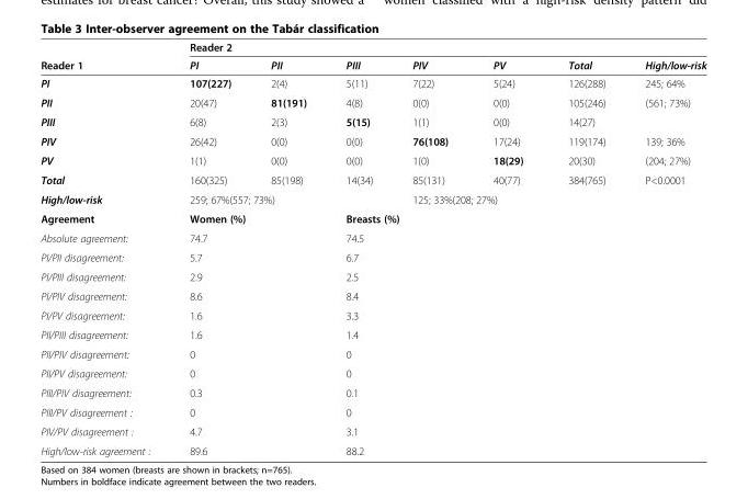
<table><thead><tr><td rowspan="2">Reader 1</td><td colspan="7">Reader 2</td></tr><tr><td>PI</td><td>PII</td><td>PIII</td><td>PIV</td><td>PV</td><td>Total</td><td>High/low-risk</td></tr></thead><tbody><tr><td>PI</td><td>107(227)</td><td>2(4)</td><td>5(11)</td><td>7(22)</td><td>5(24)</td><td>126(288)</td><td>245; 64%</td></tr><tr><td>PII</td><td>20(47)</td><td>81(191)</td><td>4(8)</td><td>0(0)</td><td>0(0)</td><td>105(246)</td><td>(561; 73%)</td></tr><tr><td>PIII</td><td>6(8)</td><td>2(3)</td><td>5(15)</td><td>1(1)</td><td>0(0)</td><td>14(27)</td><td></td></tr><tr><td>PIV</td><td>26(42)</td><td>0(0)</td><td>0(0)</td><td>76(108)</td><td>17(24)</td><td>119(174)</td><td>139; 36%</td></tr><tr><td>PV</td><td>1(1)</td><td>0(0)</td><td>0(0)</td><td>1(0)</td><td>18(29)</td><td>20(30)</td><td>(204; 27%)</td></tr><tr><td>Total</td><td>160(325)</td><td>85(198)</td><td>14(34)</td><td>85(131)</td><td>40(77)</td><td>384(765)</td><td>P&lt;0.0001</td></tr><tr><td>High/low-risk</td><td colspan="2">259; 67%(557; 73%)</td><td></td><td colspan="2">125; 33%(208; 27%)</td><td></td><td></td></tr><tr><td>Agreement</td><td colspan="2">Women (%)</td><td colspan="3">Breasts (%)</td><td></td><td></td></tr><tr><td>Absolute agreement:</td><td colspan="2">74.7</td><td>74.5</td><td></td><td></td><td></td><td></td></tr><tr><td>PI/PII disagreement:</td><td colspan="2">5.7</td><td>6.7</td><td></td><td></td><td></td><td></td></tr><tr><td>PI/PIII disagreement:</td><td colspan="2">2.9</td><td>2.5</td><td></td><td></td><td></td><td></td></tr><tr><td>PI/PIV disagreement:</td><td colspan="2">8.6</td><td>8.4</td><td></td><td></td><td></td><td></td></tr><tr><td>PI/PV disagreement:</td><td colspan="2">1.6</td><td>3.3</td><td></td><td></td><td></td><td></td></tr><tr><td>PII/PIII disagreement:</td><td colspan="2">1.6</td><td>1.4</td><td></td><td></td><td></td><td></td></tr><tr><td>PII/PIV disagreement:</td><td colspan="2">0</td><td>0</td><td></td><td></td><td></td><td></td></tr><tr><td>PII/PV disagreement:</td><td colspan="2">0</td><td>0</td><td></td><td></td><td></td><td></td></tr><tr><td>PIII/PIV disagreement:</td><td colspan="2">0.3</td><td>0.1</td><td></td><td></td><td></td><td></td></tr><tr><td>PIII/PV disagreement :</td><td colspan="2">0</td><td>0</td><td></td><td></td><td></td><td></td></tr><tr><td>PIV/PV disagreement :</td><td colspan="2">4.7</td><td>3.1</td><td></td><td></td><td></td><td></td></tr><tr><td>High/low-risk agreement :</td><td colspan="2">89.6</td><td>88.2</td><td></td><td></td><td></td><td></td></tr></tbody></table>